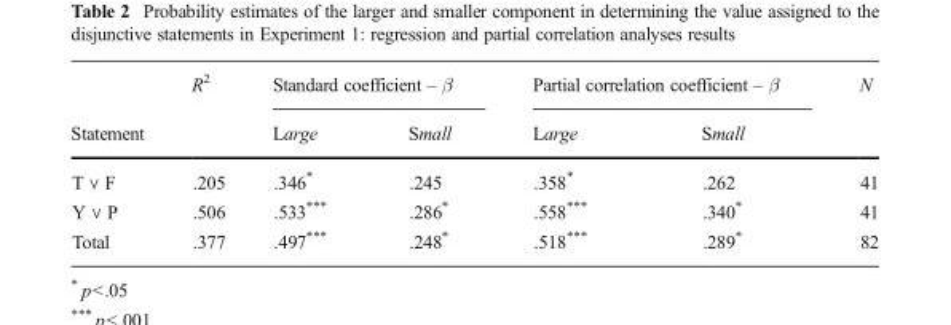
<table><thead><tr><td rowspan="2">Statement</td><td rowspan="2">R<sup>2</sup></td><td colspan="2">Standard coefficient – β</td><td colspan="2">Partial correlation coefficient – β</td><td rowspan="2">N</td></tr><tr><td>Large</td><td>Small</td><td>Large</td><td>Small</td></tr></thead><tbody><tr><td>T ∨ F</td><td>.205</td><td>.346*</td><td>.245</td><td>.358*</td><td>.262</td><td>41</td></tr><tr><td>Y ∨ P</td><td>.506</td><td>.533***</td><td>.286*</td><td>.558***</td><td>.340*</td><td>41</td></tr><tr><td>Total</td><td>.377</td><td>.497***</td><td>.248*</td><td>.518***</td><td>.289*</td><td>82</td></tr></tbody></table>